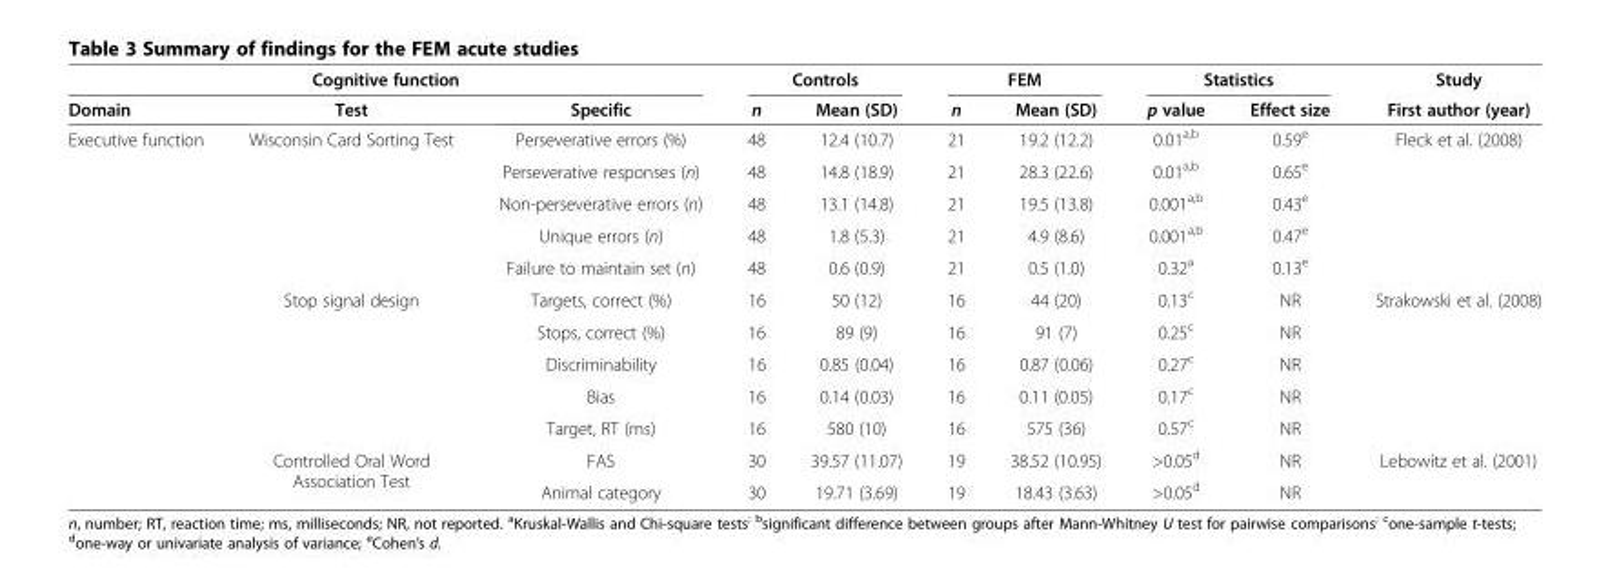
<table><thead><tr><td colspan="3">Cognitive function</td><td colspan="2">Controls</td><td colspan="2">FEM</td><td colspan="2">Statistics</td><td rowspan="2">Study First author (year)</td></tr><tr><td>Domain</td><td>Test</td><td>Specific</td><td>n</td><td>Mean (SD)</td><td>n</td><td>Mean (SD)</td><td>p value</td><td>Effect size</td></tr></thead><tbody><tr><td rowspan="12">Executive function</td><td rowspan="5">Wisconsin Card Sorting Test</td><td>Perseverative errors (%)</td><td>48</td><td>12.4 (10.7)</td><td>21</td><td>19.2 (12.2)</td><td>0.01<sup>a,b</sup></td><td>0.59<sup>e</sup></td><td rowspan="5">Fleck et al. (2008)</td></tr><tr><td>Perseverative responses (n)</td><td>48</td><td>14.8 (18.9)</td><td>21</td><td>28.3 (22.6)</td><td>0.01<sup>a,b</sup></td><td>0.65<sup>e</sup></td></tr><tr><td>Non-perseverative errors (n)</td><td>48</td><td>13.1 (14.8)</td><td>21</td><td>19.5 (13.8)</td><td>0.001<sup>a,b</sup></td><td>0.43<sup>e</sup></td></tr><tr><td>Unique errors (n)</td><td>48</td><td>1.8 (5.3)</td><td>21</td><td>4.9 (8.6)</td><td>0.001<sup>a,b</sup></td><td>0.47<sup>e</sup></td></tr><tr><td>Failure to maintain set (n)</td><td>48</td><td>0.6 (0.9)</td><td>21</td><td>0.5 (1.0)</td><td>0.32<sup>a</sup></td><td>0.13<sup>e</sup></td></tr><tr><td rowspan="5">Stop signal design</td><td>Targets, correct (%)</td><td>16</td><td>50 (12)</td><td>16</td><td>44 (20)</td><td>0.13<sup>c</sup></td><td>NR</td><td rowspan="5">Strakowski et al. (2008)</td></tr><tr><td>Stops, correct (%)</td><td>16</td><td>89 (9)</td><td>16</td><td>91 (7)</td><td>0.25<sup>c</sup></td><td>NR</td></tr><tr><td>Discriminability</td><td>16</td><td>0.85 (0.04)</td><td>16</td><td>0.87 (0.06)</td><td>0.27<sup>c</sup></td><td>NR</td></tr><tr><td>Bias</td><td>16</td><td>0.14 (0.03)</td><td>16</td><td>0.11 (0.05)</td><td>0.17<sup>c</sup></td><td>NR</td></tr><tr><td>Target, RT (ms)</td><td>16</td><td>580 (10)</td><td>16</td><td>575 (36)</td><td>0.57<sup>c</sup></td><td>NR</td></tr><tr><td rowspan="2">Controlled Oral Word Association Test</td><td>FAS</td><td>30</td><td>39.57 (11.07)</td><td>19</td><td>38.52 (10.95)</td><td>&gt;0.05<sup>d</sup></td><td>NR</td><td rowspan="2">Lebowitz et al. (2001)</td></tr><tr><td>Animal category</td><td>30</td><td>19.71 (3.69)</td><td>19</td><td>18.43 (3.63)</td><td>&gt;0.05<sup>d</sup></td><td>NR</td></tr></tbody></table>